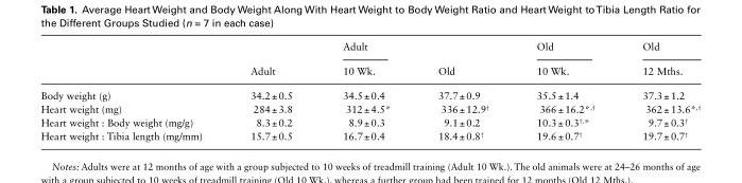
<table><thead><tr><td rowspan="2"></td><td rowspan="2">Adult</td><td rowspan="2">Adult 10 Wk.</td><td rowspan="2">Old</td><td rowspan="2">Old 10 Wk.</td><td rowspan="2">Old 12 Mths.</td></tr><tr></tr></thead><tbody><tr><td>Body weight (g)</td><td>34.2 ± 0.5</td><td>34.5 ± 0.4</td><td>37.7 ± 0.9</td><td>35.5 ± 1.4</td><td>37.3 ± 1.2</td></tr><tr><td>Heart weight (mg)</td><td>284 ± 3.8</td><td>312 ± 4.5*</td><td>336 ± 12.9<sup>†</sup></td><td>366 ± 16.2*<sup>,†</sup></td><td>362 ± 13.6*<sup>,†</sup></td></tr><tr><td>Heart weight : Body weight (mg/g)</td><td>8.3 ± 0.2</td><td>8.9 ± 0.3</td><td>9.1 ± 0.2</td><td>10.3 ± 0.3<sup>†,</sup>*</td><td>9.7 ± 0.3<sup>†</sup></td></tr><tr><td>Heart weight : Tibia length (mg/mm)</td><td>15.7 ± 0.5</td><td>16.7 ± 0.4</td><td>18.4 ± 0.8<sup>†</sup></td><td>19.6 ± 0.7<sup>†</sup></td><td>19.7 ± 0.7<sup>†</sup></td></tr></tbody></table>